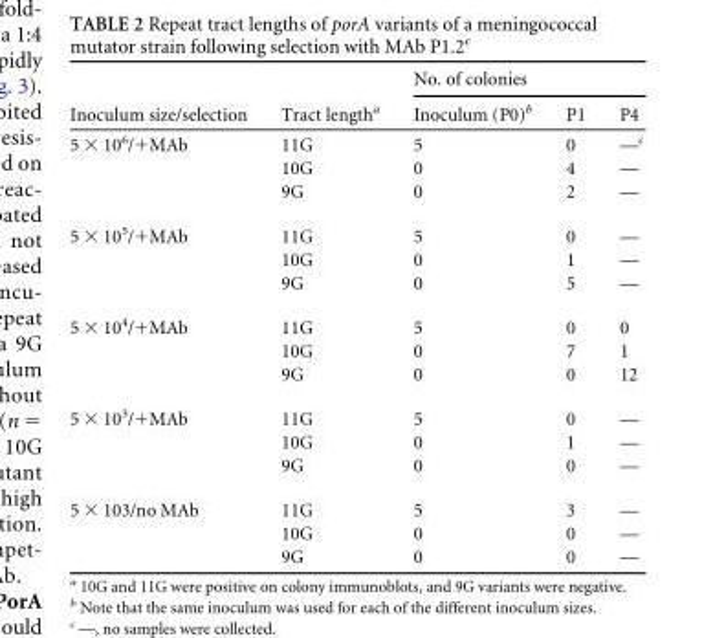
<table><thead><tr><td rowspan="2">Inoculum size/selection</td><td rowspan="2">Tract length<sup>a</sup></td><td colspan="3">No. of colonies</td></tr><tr><td>Inoculum (P0)<sup>b</sup></td><td>P1</td><td>P4</td></tr></thead><tbody><tr><td rowspan="3">5 × 10<sup>6</sup>/+MAb</td><td>11G</td><td>5</td><td>0</td><td>—<sup>c</sup></td></tr><tr><td>10G</td><td>0</td><td>4</td><td>—</td></tr><tr><td>9G</td><td>0</td><td>2</td><td>—</td></tr><tr><td rowspan="3">5 × 10<sup>5</sup>/+MAb</td><td>11G</td><td>5</td><td>0</td><td>—</td></tr><tr><td>10G</td><td>0</td><td>1</td><td>—</td></tr><tr><td>9G</td><td>0</td><td>5</td><td>—</td></tr><tr><td rowspan="3">5 × 10<sup>4</sup>/+MAb</td><td>11G</td><td>5</td><td>0</td><td>0</td></tr><tr><td>10G</td><td>0</td><td>7</td><td>1</td></tr><tr><td>9G</td><td>0</td><td>0</td><td>12</td></tr><tr><td rowspan="3">5 × 10<sup>3</sup>/+MAb</td><td>11G</td><td>5</td><td>0</td><td>—</td></tr><tr><td>10G</td><td>0</td><td>1</td><td>—</td></tr><tr><td>9G</td><td>0</td><td>0</td><td>—</td></tr><tr><td rowspan="3">5 × 103/no MAb</td><td>11G</td><td>5</td><td>3</td><td>—</td></tr><tr><td>10G</td><td>0</td><td>0</td><td>—</td></tr><tr><td>9G</td><td>0</td><td>0</td><td>—</td></tr></tbody></table>